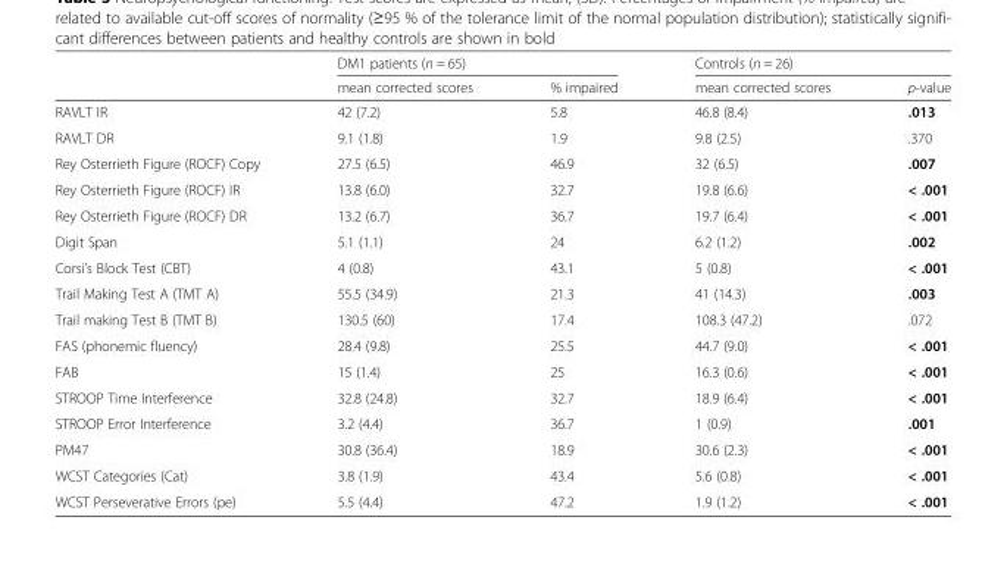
<table><thead><tr><td rowspan="2"></td><td colspan="2">DM1 patients (n = 65)</td><td colspan="2">Controls (n = 26)</td></tr><tr><td>mean corrected scores</td><td>% impaired</td><td>mean corrected scores</td><td>p-value</td></tr></thead><tbody><tr><td>RAVLT IR</td><td>42 (7.2)</td><td>5.8</td><td>46.8 (8.4)</td><td>.013</td></tr><tr><td>RAVLT DR</td><td>9.1 (1.8)</td><td>1.9</td><td>9.8 (2.5)</td><td>.370</td></tr><tr><td>Rey Osterrieth Figure (ROCF) Copy</td><td>27.5 (6.5)</td><td>46.9</td><td>32 (6.5)</td><td>.007</td></tr><tr><td>Rey Osterrieth Figure (ROCF) IR</td><td>13.8 (6.0)</td><td>32.7</td><td>19.8 (6.6)</td><td>&lt; .001</td></tr><tr><td>Rey Osterrieth Figure (ROCF) DR</td><td>13.2 (6.7)</td><td>36.7</td><td>19.7 (6.4)</td><td>&lt; .001</td></tr><tr><td>Digit Span</td><td>5.1 (1.1)</td><td>24</td><td>6.2 (1.2)</td><td>.002</td></tr><tr><td>Corsi’s Block Test (CBT)</td><td>4 (0.8)</td><td>43.1</td><td>5 (0.8)</td><td>&lt; .001</td></tr><tr><td>Trail Making Test A (TMT A)</td><td>55.5 (34.9)</td><td>21.3</td><td>41 (14.3)</td><td>.003</td></tr><tr><td>Trail making Test B (TMT B)</td><td>130.5 (60)</td><td>17.4</td><td>108.3 (47.2)</td><td>.072</td></tr><tr><td>FAS (phonemic fluency)</td><td>28.4 (9.8)</td><td>25.5</td><td>44.7 (9.0)</td><td>&lt; .001</td></tr><tr><td>FAB</td><td>15 (1.4)</td><td>25</td><td>16.3 (0.6)</td><td>&lt; .001</td></tr><tr><td>STROOP Time Interference</td><td>32.8 (24.8)</td><td>32.7</td><td>18.9 (6.4)</td><td>&lt; .001</td></tr><tr><td>STROOP Error Interference</td><td>3.2 (4.4)</td><td>36.7</td><td>1 (0.9)</td><td>.001</td></tr><tr><td>PM47</td><td>30.8 (36.4)</td><td>18.9</td><td>30.6 (2.3)</td><td>&lt; .001</td></tr><tr><td>WCST Categories (Cat)</td><td>3.8 (1.9)</td><td>43.4</td><td>5.6 (0.8)</td><td>&lt; .001</td></tr><tr><td>WCST Perseverative Errors (pe)</td><td>5.5 (4.4)</td><td>47.2</td><td>1.9 (1.2)</td><td>&lt; .001</td></tr></tbody></table>